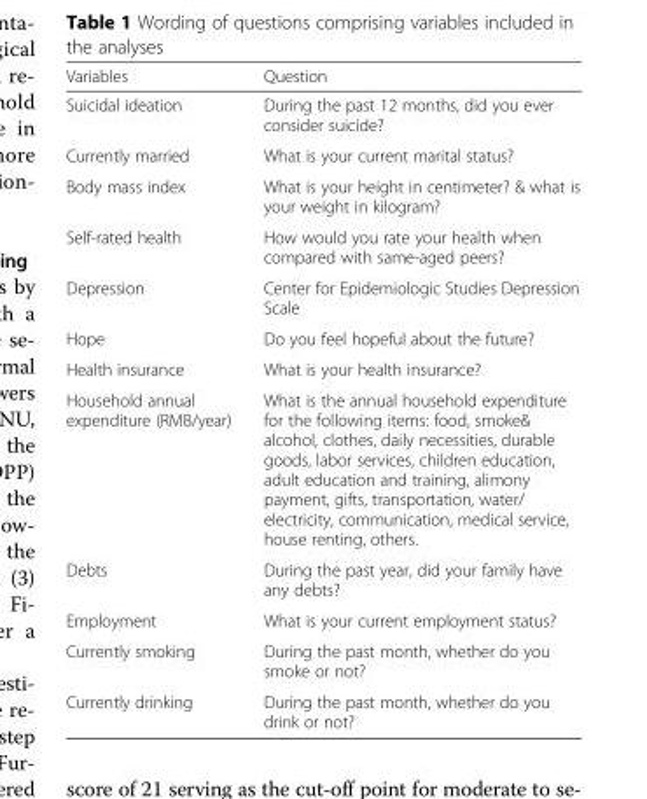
<table><thead><tr><td>Variables</td><td>Question</td></tr></thead><tbody><tr><td>Suicidal ideation</td><td>During the past 12 months, did you ever consider suicide?</td></tr><tr><td>Currently married</td><td>What is your current marital status?</td></tr><tr><td>Body mass index</td><td>What is your height in centimeter? &amp; what is your weight in kilogram?</td></tr><tr><td>Self-rated health</td><td>How would you rate your health when compared with same-aged peers?</td></tr><tr><td>Depression</td><td>Center for Epidemiologic Studies Depression Scale</td></tr><tr><td>Hope</td><td>Do you feel hopeful about the future?</td></tr><tr><td>Health insurance</td><td>What is your health insurance?</td></tr><tr><td>Household annual expenditure (RMB/year)</td><td>What is the annual household expenditure for the following items: food, smoke&amp; alcohol, clothes, daily necessities, durable goods, labor services, children education, adult education and training, alimony payment, gifts, transportation, water/ electricity, communication, medical service, house renting, others.</td></tr><tr><td>Debts</td><td>During the past year, did your family have any debts?</td></tr><tr><td>Employment</td><td>What is your current employment status?</td></tr><tr><td>Currently smoking</td><td>During the past month, whether do you smoke or not?</td></tr><tr><td>Currently drinking</td><td>During the past month, whether do you drink or not?</td></tr></tbody></table>